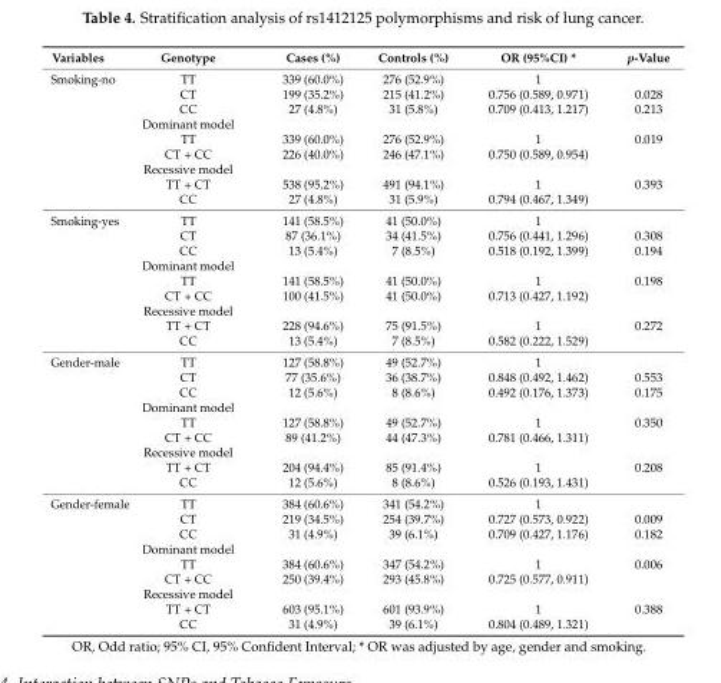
<table><thead><tr><td>Variables</td><td>Genotype</td><td>Cases (%)</td><td>Controls (%)</td><td>OR (95%CI) *</td><td>p-Value</td></tr></thead><tbody><tr><td rowspan="9">Smoking-no</td><td>TT</td><td>339 (60.0%)</td><td>276 (52.9%)</td><td>1</td><td></td></tr><tr><td>CT</td><td>199 (35.2%)</td><td>215 (41.2%)</td><td>0.756 (0.589, 0.971)</td><td>0.028</td></tr><tr><td>CC</td><td>27 (4.8%)</td><td>31 (5.8%)</td><td>0.709 (0.413, 1.217)</td><td>0.213</td></tr><tr><td>Dominant model</td><td></td><td></td><td></td><td></td></tr><tr><td>TT</td><td>339 (60.0%)</td><td>276 (52.9%)</td><td>1</td><td>0.019</td></tr><tr><td>CT + CC</td><td>226 (40.0%)</td><td>246 (47.1%)</td><td>0.750 (0.589, 0.954)</td><td></td></tr><tr><td>Recessive model</td><td></td><td></td><td></td><td></td></tr><tr><td>TT + CT</td><td>538 (95.2%)</td><td>491 (94.1%)</td><td>1</td><td>0.393</td></tr><tr><td>CC</td><td>27 (4.8%)</td><td>31 (5.9%)</td><td>0.794 (0.467, 1.349)</td><td></td></tr><tr><td rowspan="9">Smoking-yes</td><td>TT</td><td>141 (58.5%)</td><td>41 (50.0%)</td><td>1</td><td></td></tr><tr><td>CT</td><td>87 (36.1%)</td><td>34 (41.5%)</td><td>0.756 (0.441, 1.296)</td><td>0.308</td></tr><tr><td>CC</td><td>13 (5.4%)</td><td>7 (8.5%)</td><td>0.518 (0.192, 1.399)</td><td>0.194</td></tr><tr><td>Dominant model</td><td></td><td></td><td></td><td></td></tr><tr><td>TT</td><td>141 (58.5%)</td><td>41 (50.0%)</td><td>1</td><td>0.198</td></tr><tr><td>CT + CC</td><td>100 (41.5%)</td><td>41 (50.0%)</td><td>0.713 (0.427, 1.192)</td><td></td></tr><tr><td>Recessive model</td><td></td><td></td><td></td><td></td></tr><tr><td>TT + CT</td><td>228 (94.6%)</td><td>75 (91.5%)</td><td>1</td><td>0.272</td></tr><tr><td>CC</td><td>13 (5.4%)</td><td>7 (8.5%)</td><td>0.582 (0.222, 1.529)</td><td></td></tr><tr><td rowspan="9">Gender-male</td><td>TT</td><td>127 (58.8%)</td><td>49 (52.7%)</td><td>1</td><td></td></tr><tr><td>CT</td><td>77 (35.6%)</td><td>36 (38.7%)</td><td>0.848 (0.492, 1.462)</td><td>0.553</td></tr><tr><td>CC</td><td>12 (5.6%)</td><td>8 (8.6%)</td><td>0.492 (0.176, 1.373)</td><td>0.175</td></tr><tr><td>Dominant model</td><td></td><td></td><td></td><td></td></tr><tr><td>TT</td><td>127 (58.8%)</td><td>49 (52.7%)</td><td>1</td><td>0.350</td></tr><tr><td>CT + CC</td><td>89 (41.2%)</td><td>44 (47.3%)</td><td>0.781 (0.466, 1.311)</td><td></td></tr><tr><td>Recessive model</td><td></td><td></td><td></td><td></td></tr><tr><td>TT + CT</td><td>204 (94.4%)</td><td>85 (91.4%)</td><td>1</td><td>0.208</td></tr><tr><td>CC</td><td>12 (5.6%)</td><td>8 (8.6%)</td><td>0.526 (0.193, 1.431)</td><td></td></tr><tr><td rowspan="9">Gender-female</td><td>TT</td><td>384 (60.6%)</td><td>341 (54.2%)</td><td>1</td><td></td></tr><tr><td>CT</td><td>219 (34.5%)</td><td>254 (39.7%)</td><td>0.727 (0.573, 0.922)</td><td>0.009</td></tr><tr><td>CC</td><td>31 (4.9%)</td><td>39 (6.1%)</td><td>0.709 (0.427, 1.176)</td><td>0.182</td></tr><tr><td>Dominant model</td><td></td><td></td><td></td><td></td></tr><tr><td>TT</td><td>384 (60.6%)</td><td>347 (54.2%)</td><td>1</td><td>0.006</td></tr><tr><td>CT + CC</td><td>250 (39.4%)</td><td>293 (45.8%)</td><td>0.725 (0.577, 0.911)</td><td></td></tr><tr><td>Recessive model</td><td></td><td></td><td></td><td></td></tr><tr><td>TT + CT</td><td>603 (95.1%)</td><td>601 (93.9%)</td><td>1</td><td>0.388</td></tr><tr><td>CC</td><td>31 (4.9%)</td><td>39 (6.1%)</td><td>0.804 (0.489, 1.321)</td><td></td></tr></tbody></table>